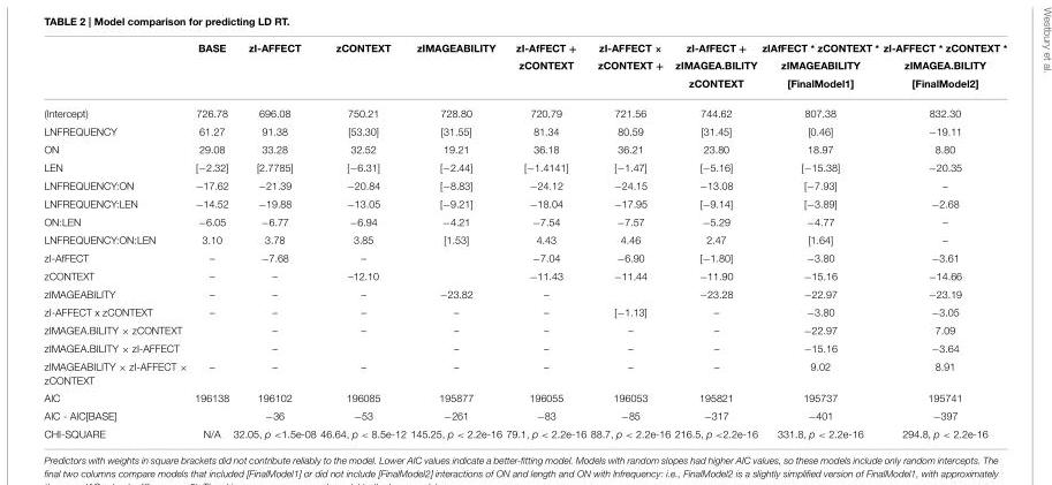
<table><thead><tr><td></td><td>BASE</td><td>zI-AFFECT</td><td>zCONTEXT</td><td>zIMAGEABILITY</td><td>zI-AfFECT + zCONTEXT</td><td>zI-AFFECT × zCONTEXT +</td><td>zI-AfFECT + zIMAGEA.BILITY zCONTEXT</td><td>zIAfFECT * zCONTEXT * zIMAGEABILITY [FinalModel1]</td><td>zI-AFFECT * zCONTEXT * zIMAGEA.BILITY [FinalModel2]</td></tr></thead><tbody><tr><td>(Intercept)</td><td>726.78</td><td>696.08</td><td>750.21</td><td>728.80</td><td>720.79</td><td>721.56</td><td>744.62</td><td>807.38</td><td>832.30</td></tr><tr><td>LNFREQUENCY</td><td>61.27</td><td>91.38</td><td>[53.30]</td><td>[31.55]</td><td>81.34</td><td>80.59</td><td>[31.45]</td><td>[0.46]</td><td>−19.11</td></tr><tr><td>ON</td><td>29.08</td><td>33.28</td><td>32.52</td><td>19.21</td><td>36.18</td><td>36.21</td><td>23.80</td><td>18.97</td><td>8.80</td></tr><tr><td>LEN</td><td>[−2.32]</td><td>[2.7785]</td><td>[−6.31]</td><td>[−2.44]</td><td>[−1.4141]</td><td>[−1.47]</td><td>[−5.16]</td><td>[−15.38]</td><td>−20.35</td></tr><tr><td>LNFREQUENCY:ON</td><td>−17.62</td><td>−21.39</td><td>−20.84</td><td>[−8.83]</td><td>−24.12</td><td>−24.15</td><td>−13.08</td><td>[−7.93]</td><td>–</td></tr><tr><td>LNFREQUENCY:LEN</td><td>−14.52</td><td>−19.88</td><td>−13.05</td><td>[−9.21]</td><td>−18.04</td><td>−17.95</td><td>[−9.14]</td><td>[−3.89]</td><td>−2.68</td></tr><tr><td>ON:LEN</td><td>−6.05</td><td>−6.77</td><td>−6.94</td><td>−4.21</td><td>−7.54</td><td>−7.57</td><td>−5.29</td><td>−4.77</td><td>–</td></tr><tr><td>LNFREQUENCY:ON:LEN</td><td>3.10</td><td>3.78</td><td>3.85</td><td>[1.53]</td><td>4.43</td><td>4.46</td><td>2.47</td><td>[1.64]</td><td>–</td></tr><tr><td>zI-AfFECT</td><td>–</td><td>−7.68</td><td>–</td><td></td><td>−7.04</td><td>−6.90</td><td>[−1.80]</td><td>−3.80</td><td>−3.61</td></tr><tr><td>zCONTEXT</td><td>–</td><td>–</td><td>–12.10</td><td></td><td>−11.43</td><td>−11.44</td><td>−11.90</td><td>−15.16</td><td>−14.66</td></tr><tr><td>zIMAGEABILITY</td><td>–</td><td>–</td><td>–</td><td>−23.82</td><td>–</td><td></td><td>−23.28</td><td>−22.97</td><td>−23.19</td></tr><tr><td>zI-AFFECT x zCONTEXT</td><td>–</td><td>–</td><td>–</td><td>–</td><td>–</td><td>[−1.13]</td><td>–</td><td>−3.80</td><td>−3.05</td></tr><tr><td>zIMAGEA.BILITY × zCONTEXT</td><td></td><td>–</td><td>–</td><td>–</td><td>–</td><td>–</td><td>–</td><td>−22.97</td><td>7.09</td></tr><tr><td>zIMAGEA.BILITY × zI-AFFECT</td><td></td><td>–</td><td></td><td>–</td><td>–</td><td>–</td><td>–</td><td>−15.16</td><td>−3.64</td></tr><tr><td>zIMAGEABILITY × zI-AFFECT × zCONTEXT</td><td>–</td><td>–</td><td>–</td><td>–</td><td>–</td><td>–</td><td>–</td><td>9.02</td><td>8.91</td></tr><tr><td>AIC</td><td>196138</td><td>196102</td><td>196085</td><td>195877</td><td>196055</td><td>196053</td><td>195821</td><td>195737</td><td>195741</td></tr><tr><td>AIC - AIC[BASE]</td><td></td><td>−36</td><td>−53</td><td>−261</td><td>−83</td><td>−85</td><td>−317</td><td>−401</td><td>−397</td></tr><tr><td>CHI-SQUARE</td><td>N/A</td><td>32.05, p &lt;1.5e-08</td><td>46.64, p &lt; 8.5e-12</td><td>145.25, p &lt; 2.2e-16</td><td>79.1, p &lt; 2.2e-16</td><td>88.7, p &lt; 2.2e-16</td><td>216.5, p &lt;2.2e-16</td><td>331.8, p &lt; 2.2e-16</td><td>294.8, p &lt; 2.2e-16</td></tr></tbody></table>